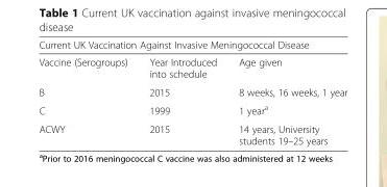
<table><thead><tr><td colspan="3">Current UK Vaccination Against Invasive Meningococcal Disease</td></tr><tr><td>Vaccine (Serogroups)</td><td>Year Introduced into schedule</td><td>Age given</td></tr></thead><tbody><tr><td>B</td><td>2015</td><td>8 weeks, 16 weeks, 1 year</td></tr><tr><td>C</td><td>1999</td><td>1 year<sup>a</sup></td></tr><tr><td>ACWY</td><td>2015</td><td>14 years, University students 19–25 years</td></tr></tbody></table>